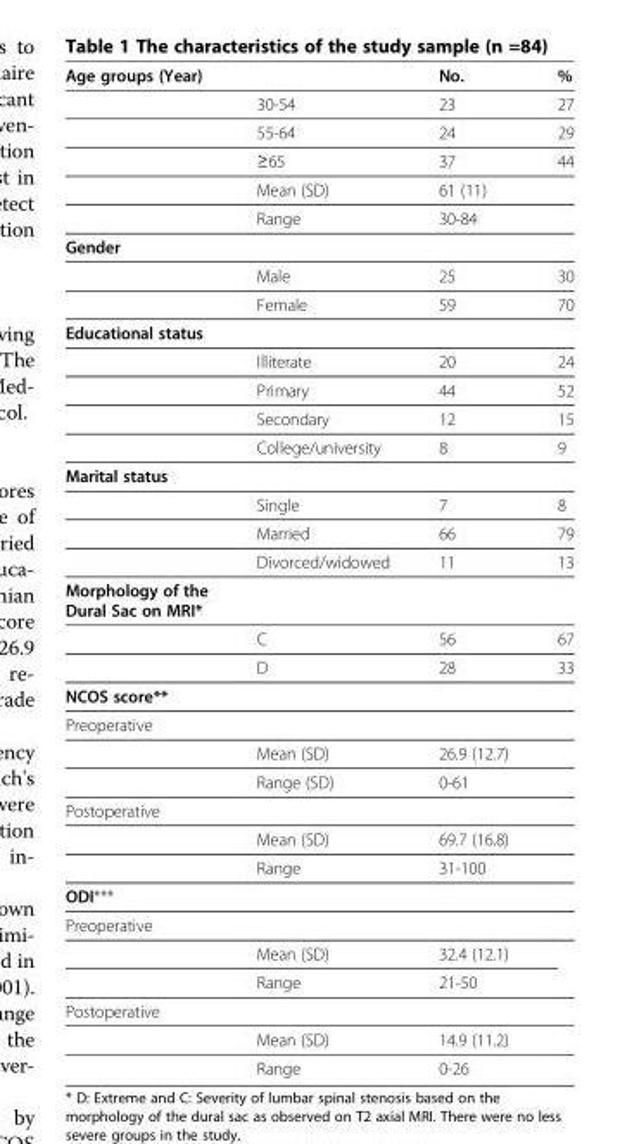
<table><thead><tr><td>Age groups (Year)</td><td></td><td>No.</td><td>%</td></tr></thead><tbody><tr><td></td><td>30-54</td><td>23</td><td>27</td></tr><tr><td></td><td>55-64</td><td>24</td><td>29</td></tr><tr><td></td><td>≥65</td><td>37</td><td>44</td></tr><tr><td></td><td>Mean (SD)</td><td>61 (11)</td><td></td></tr><tr><td></td><td>Range</td><td>30-84</td><td></td></tr><tr><td colspan="4">Gender</td></tr><tr><td></td><td>Male</td><td>25</td><td>30</td></tr><tr><td></td><td>Female</td><td>59</td><td>70</td></tr><tr><td colspan="4">Educational status</td></tr><tr><td></td><td>Illiterate</td><td>20</td><td>24</td></tr><tr><td></td><td>Primary</td><td>44</td><td>52</td></tr><tr><td></td><td>Secondary</td><td>12</td><td>15</td></tr><tr><td></td><td>College/university</td><td>8</td><td>9</td></tr><tr><td colspan="4">Marital status</td></tr><tr><td></td><td>Single</td><td>7</td><td>8</td></tr><tr><td></td><td>Married</td><td>66</td><td>79</td></tr><tr><td></td><td>Divorced/widowed</td><td>11</td><td>13</td></tr><tr><td colspan="4">Morphology of the Dural Sac on MRI*</td></tr><tr><td></td><td>C</td><td>56</td><td>67</td></tr><tr><td></td><td>D</td><td>28</td><td>33</td></tr><tr><td colspan="4">NCOS score**</td></tr><tr><td colspan="4">Preoperative</td></tr><tr><td></td><td>Mean (SD)</td><td>26.9 (12.7)</td><td></td></tr><tr><td></td><td>Range (SD)</td><td>0-61</td><td></td></tr><tr><td colspan="4">Postoperative</td></tr><tr><td></td><td>Mean (SD)</td><td>69.7 (16.8)</td><td></td></tr><tr><td></td><td>Range</td><td>31-100</td><td></td></tr><tr><td colspan="4">ODI***</td></tr><tr><td colspan="4">Preoperative</td></tr><tr><td></td><td>Mean (SD)</td><td>32.4 (12.1)</td><td rowspan="2"></td></tr><tr><td></td><td>Range</td><td>21-50</td></tr><tr><td colspan="4">Postoperative</td></tr><tr><td></td><td>Mean (SD)</td><td>14.9 (11.2)</td><td></td></tr><tr><td></td><td>Range</td><td>0-26</td><td></td></tr></tbody></table>